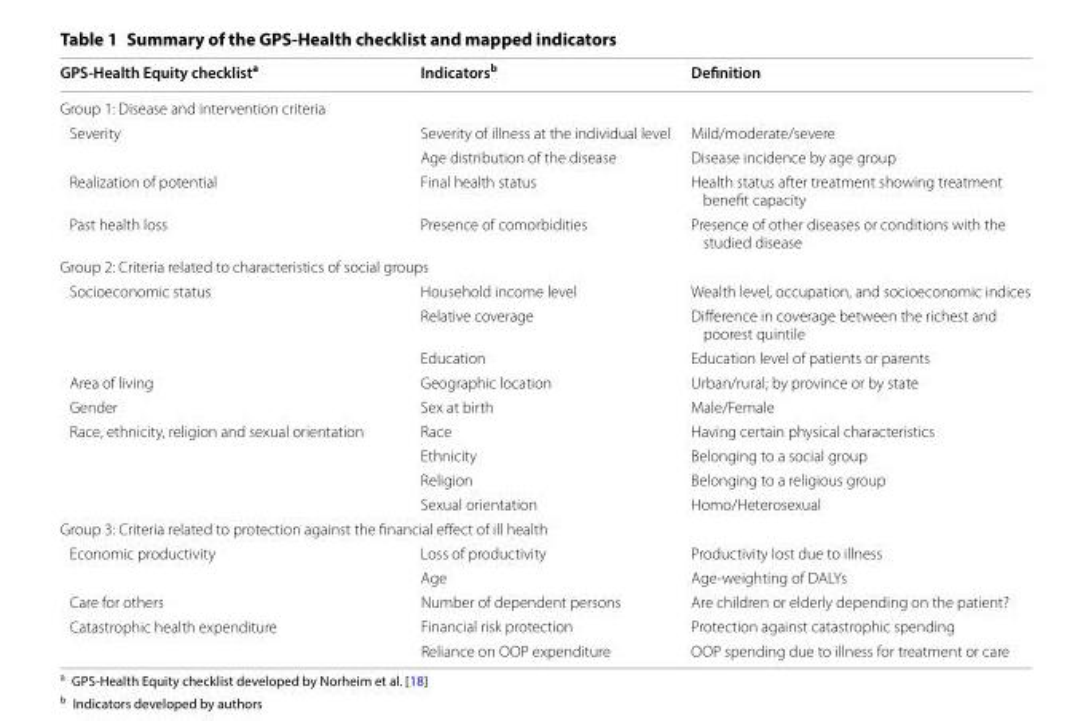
<table><thead><tr><td>GPS-Health Equity checklist<sup>a</sup></td><td>Indicators<sup>b</sup></td><td>Definition</td></tr></thead><tbody><tr><td colspan="3">Group 1: Disease and intervention criteria</td></tr><tr><td rowspan="2">Severity</td><td>Severity of illness at the individual level</td><td>Mild/moderate/severe</td></tr><tr><td>Age distribution of the disease</td><td>Disease incidence by age group</td></tr><tr><td>Realization of potential</td><td>Final health status</td><td>Health status after treatment showing treatment benefit capacity</td></tr><tr><td>Past health loss</td><td>Presence of comorbidities</td><td>Presence of other diseases or conditions with the studied disease</td></tr><tr><td colspan="3">Group 2: Criteria related to characteristics of social groups</td></tr><tr><td rowspan="3">Socioeconomic status</td><td>Household income level</td><td>Wealth level, occupation, and socioeconomic indices</td></tr><tr><td>Relative coverage</td><td>Difference in coverage between the richest and poorest quintile</td></tr><tr><td>Education</td><td>Education level of patients or parents</td></tr><tr><td>Area of living</td><td>Geographic location</td><td>Urban/rural; by province or by state</td></tr><tr><td>Gender</td><td>Sex at birth</td><td>Male/Female</td></tr><tr><td rowspan="4">Race, ethnicity, religion and sexual orientation</td><td>Race</td><td>Having certain physical characteristics</td></tr><tr><td>Ethnicity</td><td>Belonging to a social group</td></tr><tr><td>Religion</td><td>Belonging to a religious group</td></tr><tr><td>Sexual orientation</td><td>Homo/Heterosexual</td></tr><tr><td colspan="3">Group 3: Criteria related to protection against the financial effect of ill health</td></tr><tr><td rowspan="2">Economic productivity</td><td>Loss of productivity</td><td>Productivity lost due to illness</td></tr><tr><td>Age</td><td>Age‑weighting of DALYs</td></tr><tr><td>Care for others</td><td>Number of dependent persons</td><td>Are children or elderly depending on the patient?</td></tr><tr><td rowspan="2">Catastrophic health expenditure</td><td>Financial risk protection</td><td>Protection against catastrophic spending</td></tr><tr><td>Reliance on OOP expenditure</td><td>OOP spending due to illness for treatment or care</td></tr></tbody></table>